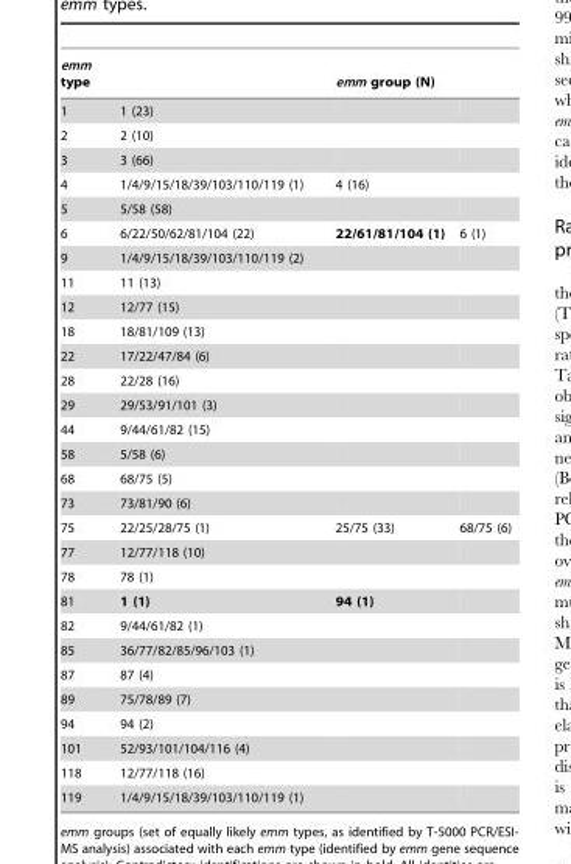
<table><thead><tr><td>emm type</td><td></td><td>emm group (N)</td><td></td></tr></thead><tbody><tr><td>1</td><td>1 (23)</td><td></td><td></td></tr><tr><td>2</td><td>2 (10)</td><td></td><td></td></tr><tr><td>3</td><td>3 (66)</td><td></td><td></td></tr><tr><td>4</td><td>1/4/9/15/18/39/103/110/119 (1)</td><td>4 (16)</td><td></td></tr><tr><td>5</td><td>5/58 (58)</td><td></td><td></td></tr><tr><td>6</td><td>6/22/50/62/81/104 (22)</td><td>22/61/81/104 (1)</td><td>6 (1)</td></tr><tr><td>9</td><td>1/4/9/15/18/39/103/110/119 (2)</td><td></td><td></td></tr><tr><td>11</td><td>11 (13)</td><td></td><td></td></tr><tr><td>12</td><td>12/77 (15)</td><td></td><td></td></tr><tr><td>18</td><td>18/81/109 (13)</td><td></td><td></td></tr><tr><td>22</td><td>17/22/47/84 (6)</td><td></td><td></td></tr><tr><td>28</td><td>22/28 (16)</td><td></td><td></td></tr><tr><td>29</td><td>29/53/91/101 (3)</td><td></td><td></td></tr><tr><td>44</td><td>9/44/61/82 (15)</td><td></td><td></td></tr><tr><td>58</td><td>5/58 (6)</td><td></td><td></td></tr><tr><td>68</td><td>68/75 (5)</td><td></td><td></td></tr><tr><td>73</td><td>73/81/90 (6)</td><td></td><td></td></tr><tr><td>75</td><td>22/25/28/75 (1)</td><td>25/75 (33)</td><td>68/75 (6)</td></tr><tr><td>77</td><td>12/77/118 (10)</td><td></td><td></td></tr><tr><td>78</td><td>78 (1)</td><td></td><td></td></tr><tr><td>81</td><td>1 (1)</td><td>94 (1)</td><td></td></tr><tr><td>82</td><td>9/44/61/82 (1)</td><td></td><td></td></tr><tr><td>85</td><td>36/77/82/85/96/103 (1)</td><td></td><td></td></tr><tr><td>87</td><td>87 (4)</td><td></td><td></td></tr><tr><td>89</td><td>75/78/89 (7)</td><td></td><td></td></tr><tr><td>94</td><td>94 (2)</td><td></td><td></td></tr><tr><td>101</td><td>52/93/101/104/116 (4)</td><td></td><td></td></tr><tr><td>118</td><td>12/77/118 (16)</td><td></td><td></td></tr><tr><td>119</td><td>1/4/9/15/18/39/103/110/119 (1)</td><td></td><td></td></tr></tbody></table>